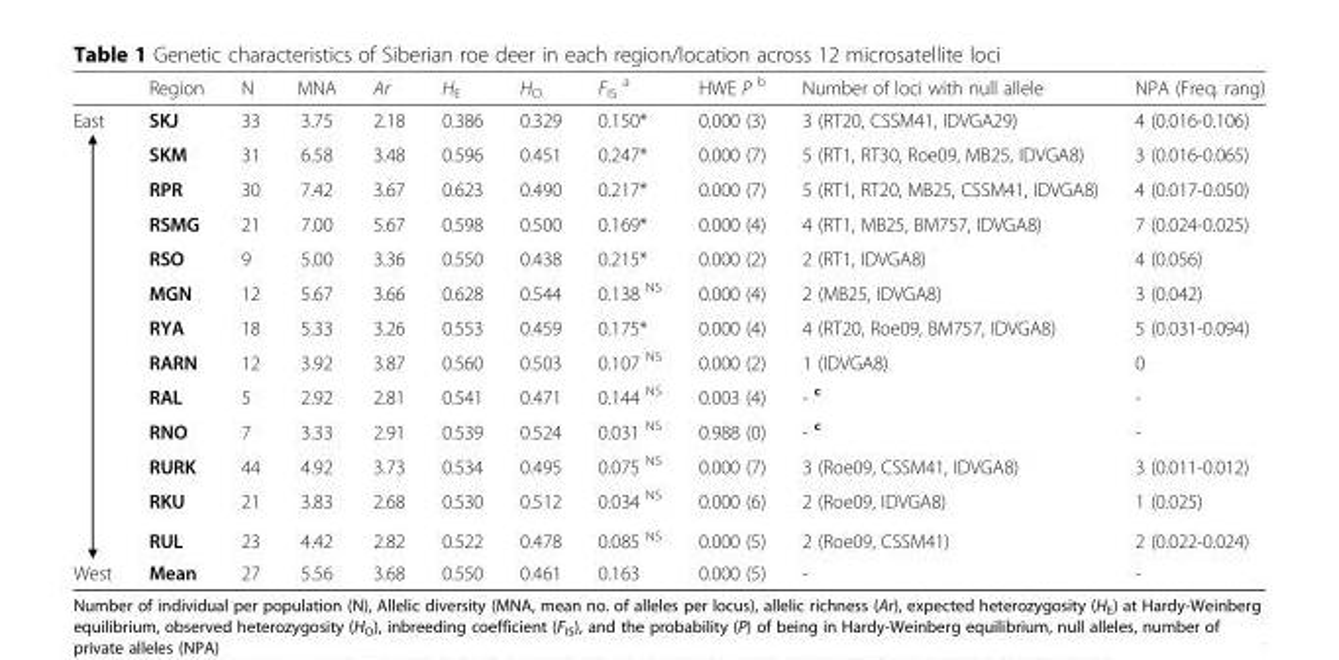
<table><thead><tr><td></td><td>Region</td><td>N</td><td>MNA</td><td>Ar</td><td>H<sub>E</sub></td><td>H<sub>O</sub></td><td>F<sub>IS</sub> <sup>a</sup></td><td>HWE P <sup>b</sup></td><td>Number of loci with null allele</td><td>NPA (Freq. rang)</td></tr></thead><tbody><tr><td rowspan="13">East</td><td>SKJ</td><td>33</td><td>3.75</td><td>2.18</td><td>0.386</td><td>0.329</td><td>0.150*</td><td>0.000 (3)</td><td>3 (RT20, CSSM41, IDVGA29)</td><td>4 (0.016-0.106)</td></tr><tr><td>SKM</td><td>31</td><td>6.58</td><td>3.48</td><td>0.596</td><td>0.451</td><td>0.247*</td><td>0.000 (7)</td><td>5 (RT1, RT30, Roe09, MB25, IDVGA8)</td><td>3 (0.016-0.065)</td></tr><tr><td>RPR</td><td>30</td><td>7.42</td><td>3.67</td><td>0.623</td><td>0.490</td><td>0.217*</td><td>0.000 (7)</td><td>5 (RT1, RT20, MB25, CSSM41, IDVGA8)</td><td>4 (0.017-0.050)</td></tr><tr><td>RSMG</td><td>21</td><td>7.00</td><td>5.67</td><td>0.598</td><td>0.500</td><td>0.169*</td><td>0.000 (4)</td><td>4 (RT1, MB25, BM757, IDVGA8)</td><td>7 (0.024-0.025)</td></tr><tr><td>RSO</td><td>9</td><td>5.00</td><td>3.36</td><td>0.550</td><td>0.438</td><td>0.215*</td><td>0.000 (2)</td><td>2 (RT1, IDVGA8)</td><td>4 (0.056)</td></tr><tr><td>MGN</td><td>12</td><td>5.67</td><td>3.66</td><td>0.628</td><td>0.544</td><td>0.138 <sup>NS</sup></td><td>0.000 (4)</td><td>2 (MB25, IDVGA8)</td><td>3 (0.042)</td></tr><tr><td>RYA</td><td>18</td><td>5.33</td><td>3.26</td><td>0.553</td><td>0.459</td><td>0.175*</td><td>0.000 (4)</td><td>4 (RT20, Roe09, BM757, IDVGA8)</td><td>5 (0.031-0.094)</td></tr><tr><td>RARN</td><td>12</td><td>3.92</td><td>3.87</td><td>0.560</td><td>0.503</td><td>0.107 <sup>NS</sup></td><td>0.000 (2)</td><td>1 (IDVGA8)</td><td>0</td></tr><tr><td>RAL</td><td>5</td><td>2.92</td><td>2.81</td><td>0.541</td><td>0.471</td><td>0.144 <sup>NS</sup></td><td>0.003 (4)</td><td>- <sup>c</sup></td><td>-</td></tr><tr><td>RNO</td><td>7</td><td>3.33</td><td>2.91</td><td>0.539</td><td>0.524</td><td>0.031 <sup>NS</sup></td><td>0.988 (0)</td><td>- <sup>c</sup></td><td>-</td></tr><tr><td>RURK</td><td>44</td><td>4.92</td><td>3.73</td><td>0.534</td><td>0.495</td><td>0.075 <sup>NS</sup></td><td>0.000 (7)</td><td>3 (Roe09, CSSM41, IDVGA8)</td><td>3 (0.011-0.012)</td></tr><tr><td>RKU</td><td>21</td><td>3.83</td><td>2.68</td><td>0.530</td><td>0.512</td><td>0.034 <sup>NS</sup></td><td>0.000 (6)</td><td>2 (Roe09, IDVGA8)</td><td>1 (0.025)</td></tr><tr><td>RUL</td><td>23</td><td>4.42</td><td>2.82</td><td>0.522</td><td>0.478</td><td>0.085 <sup>NS</sup></td><td>0.000 (5)</td><td>2 (Roe09, CSSM41)</td><td>2 (0.022-0.024)</td></tr><tr><td>West</td><td>Mean</td><td>27</td><td>5.56</td><td>3.68</td><td>0.550</td><td>0.461</td><td>0.163</td><td>0.000 (5)</td><td>-</td><td>-</td></tr></tbody></table>